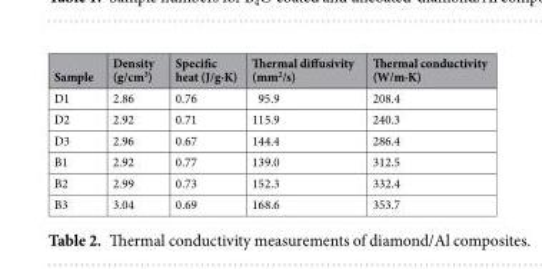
<table><thead><tr><td>Sample</td><td>Density (g/cm<sup>3</sup>)</td><td>Specific heat (J/g·K)</td><td>Thermal diffusivity (mm<sup>2</sup>/s)</td><td>Thermal conductivity (W/m·K)</td></tr></thead><tbody><tr><td>D1</td><td>2.86</td><td>0.76</td><td>95.9</td><td>208.4</td></tr><tr><td>D2</td><td>2.92</td><td>0.71</td><td>115.9</td><td>240.3</td></tr><tr><td>D3</td><td>2.96</td><td>0.67</td><td>144.4</td><td>286.4</td></tr><tr><td>B1</td><td>2.92</td><td>0.77</td><td>139.0</td><td>312.5</td></tr><tr><td>B2</td><td>2.99</td><td>0.73</td><td>152.3</td><td>332.4</td></tr><tr><td>B3</td><td>3.04</td><td>0.69</td><td>168.6</td><td>353.7</td></tr></tbody></table>